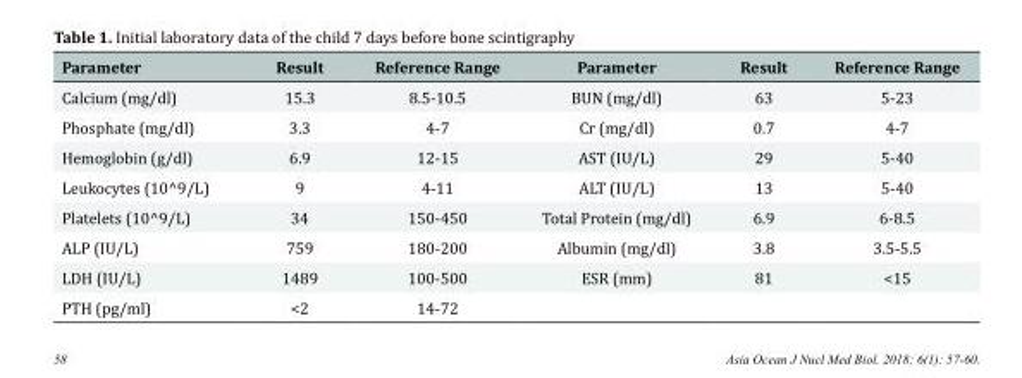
<table><thead><tr><td>Parameter</td><td>Result</td><td>Reference Range</td><td>Parameter</td><td>Result</td><td>Reference Range</td></tr></thead><tbody><tr><td>Calcium (mg/dl)</td><td>15.3</td><td>8.5-10.5</td><td>BUN (mg/dl)</td><td>63</td><td>5-23</td></tr><tr><td>Phosphate (mg/dl)</td><td>3.3</td><td>4-7</td><td>Cr (mg/dl)</td><td>0.7</td><td>4-7</td></tr><tr><td>Hemoglobin (g/dl)</td><td>6.9</td><td>12-15</td><td>AST (IU/L)</td><td>29</td><td>5-40</td></tr><tr><td>Leukocytes (10^9/L)</td><td>9</td><td>4-11</td><td>ALT (IU/L)</td><td>13</td><td>5-40</td></tr><tr><td>Platelets (10^9/L)</td><td>34</td><td>150-450</td><td>Total Protein (mg/dl)</td><td>6.9</td><td>6-8.5</td></tr><tr><td>ALP (IU/L)</td><td>759</td><td>180-200</td><td>Albumin (mg/dl)</td><td>3.8</td><td>3.5-5.5</td></tr><tr><td>LDH (IU/L)</td><td>1489</td><td>100-500</td><td>ESR (mm)</td><td>81</td><td>&lt;15</td></tr><tr><td>PTH (pg/ml)</td><td>&lt;2</td><td>14-72</td><td></td><td></td><td></td></tr></tbody></table>